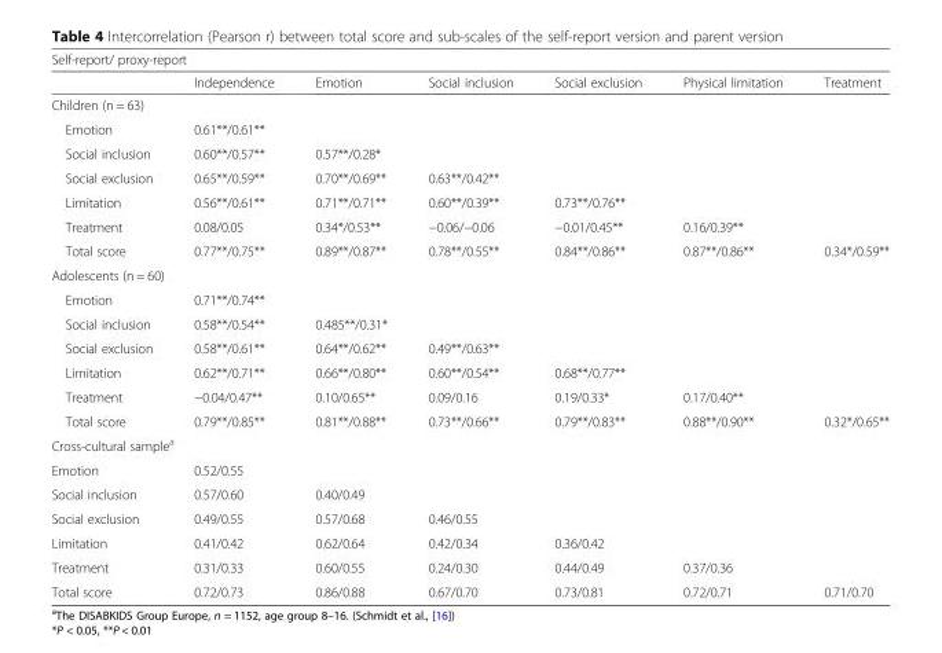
<table><thead><tr><td colspan="7">Self-report/ proxy-report</td></tr><tr><td></td><td>Independence</td><td>Emotion</td><td>Social inclusion</td><td>Social exclusion</td><td>Physical limitation</td><td>Treatment</td></tr></thead><tbody><tr><td colspan="7">Children (n = 63)</td></tr><tr><td>Emotion</td><td>0.61**/0.61**</td><td></td><td></td><td></td><td></td><td></td></tr><tr><td>Social inclusion</td><td>0.60**/0.57**</td><td>0.57**/0.28*</td><td></td><td></td><td></td><td></td></tr><tr><td>Social exclusion</td><td>0.65**/0.59**</td><td>0.70**/0.69**</td><td>0.63**/0.42**</td><td></td><td></td><td></td></tr><tr><td>Limitation</td><td>0.56**/0.61**</td><td>0.71**/0.71**</td><td>0.60**/0.39**</td><td>0.73**/0.76**</td><td></td><td></td></tr><tr><td>Treatment</td><td>0.08/0.05</td><td>0.34*/0.53**</td><td>−0.06/−0.06</td><td>−0.01/0.45**</td><td>0.16/0.39**</td><td></td></tr><tr><td>Total score</td><td>0.77**/0.75**</td><td>0.89**/0.87**</td><td>0.78**/0.55**</td><td>0.84**/0.86**</td><td>0.87**/0.86**</td><td>0.34*/0.59**</td></tr><tr><td colspan="7">Adolescents (n = 60)</td></tr><tr><td>Emotion</td><td>0.71**/0.74**</td><td></td><td></td><td></td><td></td><td></td></tr><tr><td>Social inclusion</td><td>0.58**/0.54**</td><td>0.485**/0.31*</td><td></td><td></td><td></td><td></td></tr><tr><td>Social exclusion</td><td>0.58**/0.61**</td><td>0.64**/0.62**</td><td>0.49**/0.63**</td><td></td><td></td><td></td></tr><tr><td>Limitation</td><td>0.62**/0.71**</td><td>0.66**/0.80**</td><td>0.60**/0.54**</td><td>0.68**/0.77**</td><td></td><td></td></tr><tr><td>Treatment</td><td>−0.04/0.47**</td><td>0.10/0.65**</td><td>0.09/0.16</td><td>0.19/0.33*</td><td>0.17/0.40**</td><td></td></tr><tr><td>Total score</td><td>0.79**/0.85**</td><td>0.81**/0.88**</td><td>0.73**/0.66**</td><td>0.79**/0.83**</td><td>0.88**/0.90**</td><td>0.32*/0.65**</td></tr><tr><td colspan="7">Cross-cultural sample<sup>a</sup></td></tr><tr><td>Emotion</td><td>0.52/0.55</td><td></td><td></td><td></td><td></td><td></td></tr><tr><td>Social inclusion</td><td>0.57/0.60</td><td>0.40/0.49</td><td></td><td></td><td></td><td></td></tr><tr><td>Social exclusion</td><td>0.49/0.55</td><td>0.57/0.68</td><td>0.46/0.55</td><td></td><td></td><td></td></tr><tr><td>Limitation</td><td>0.41/0.42</td><td>0.62/0.64</td><td>0.42/0.34</td><td>0.36/0.42</td><td></td><td></td></tr><tr><td>Treatment</td><td>0.31/0.33</td><td>0.60/0.55</td><td>0.24/0.30</td><td>0.44/0.49</td><td>0.37/0.36</td><td></td></tr><tr><td>Total score</td><td>0.72/0.73</td><td>0.86/0.88</td><td>0.67/0.70</td><td>0.73/0.81</td><td>0.72/0.71</td><td>0.71/0.70</td></tr></tbody></table>